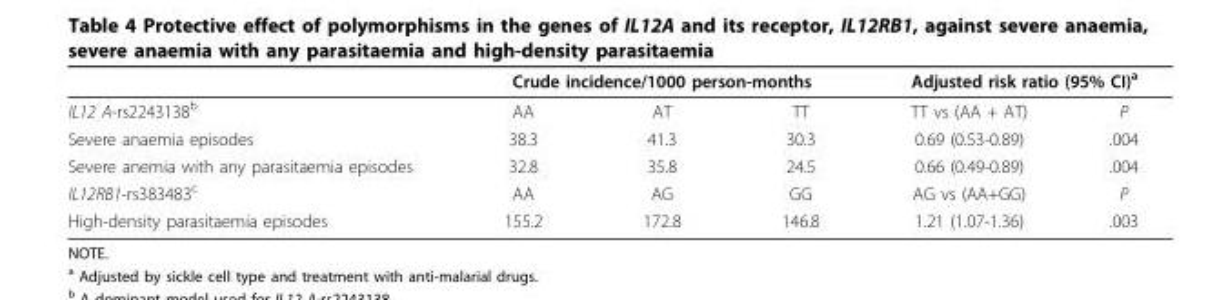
<table><thead><tr><td rowspan="2">IL12 A-rs2243138<sup>b</sup></td><td colspan="3">Crude incidence/1000 person-months</td><td colspan="2">Adjusted risk ratio (95% CI)<sup>a</sup></td></tr><tr><td>AA</td><td>AT</td><td>TT</td><td>TT vs (AA + AT)</td><td>P</td></tr></thead><tbody><tr><td>Severe anaemia episodes</td><td>38.3</td><td>41.3</td><td>30.3</td><td>0.69 (0.53-0.89)</td><td>.004</td></tr><tr><td>Severe anemia with any parasitaemia episodes</td><td>32.8</td><td>35.8</td><td>24.5</td><td>0.66 (0.49-0.89)</td><td>.004</td></tr><tr><td>IL12RB1-rs383483<sup>c</sup></td><td>AA</td><td>AG</td><td>GG</td><td>AG vs (AA+GG)</td><td>P</td></tr><tr><td>High-density parasitaemia episodes</td><td>155.2</td><td>172.8</td><td>146.8</td><td>1.21 (1.07-1.36)</td><td>.003</td></tr></tbody></table>